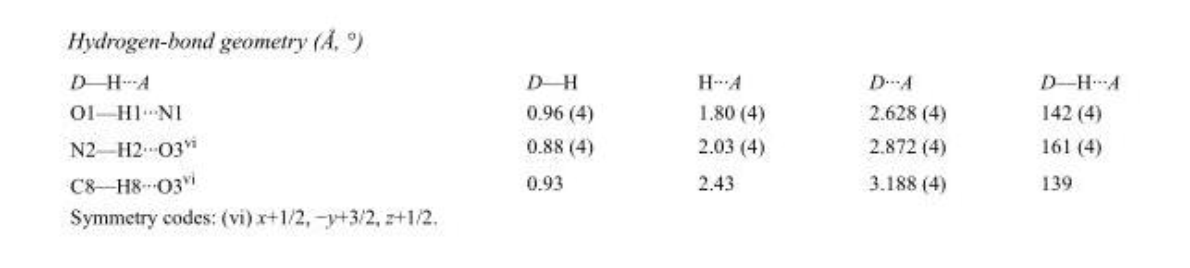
<table><tbody><tr><td>D—H···A</td><td>D—H</td><td>H···A</td><td>D···A</td><td>D—H···A</td></tr><tr><td>O1—H1···N1</td><td>0.96 (4)</td><td>1.80 (4)</td><td>2.628 (4)</td><td>142 (4)</td></tr><tr><td>N2—H2···O3<sup>vi</sup></td><td>0.88 (4)</td><td>2.03 (4)</td><td>2.872 (4)</td><td>161 (4)</td></tr><tr><td>C8—H8···O3<sup>vi</sup></td><td>0.93</td><td>2.43</td><td>3.188 (4)</td><td>139</td></tr></tbody></table>